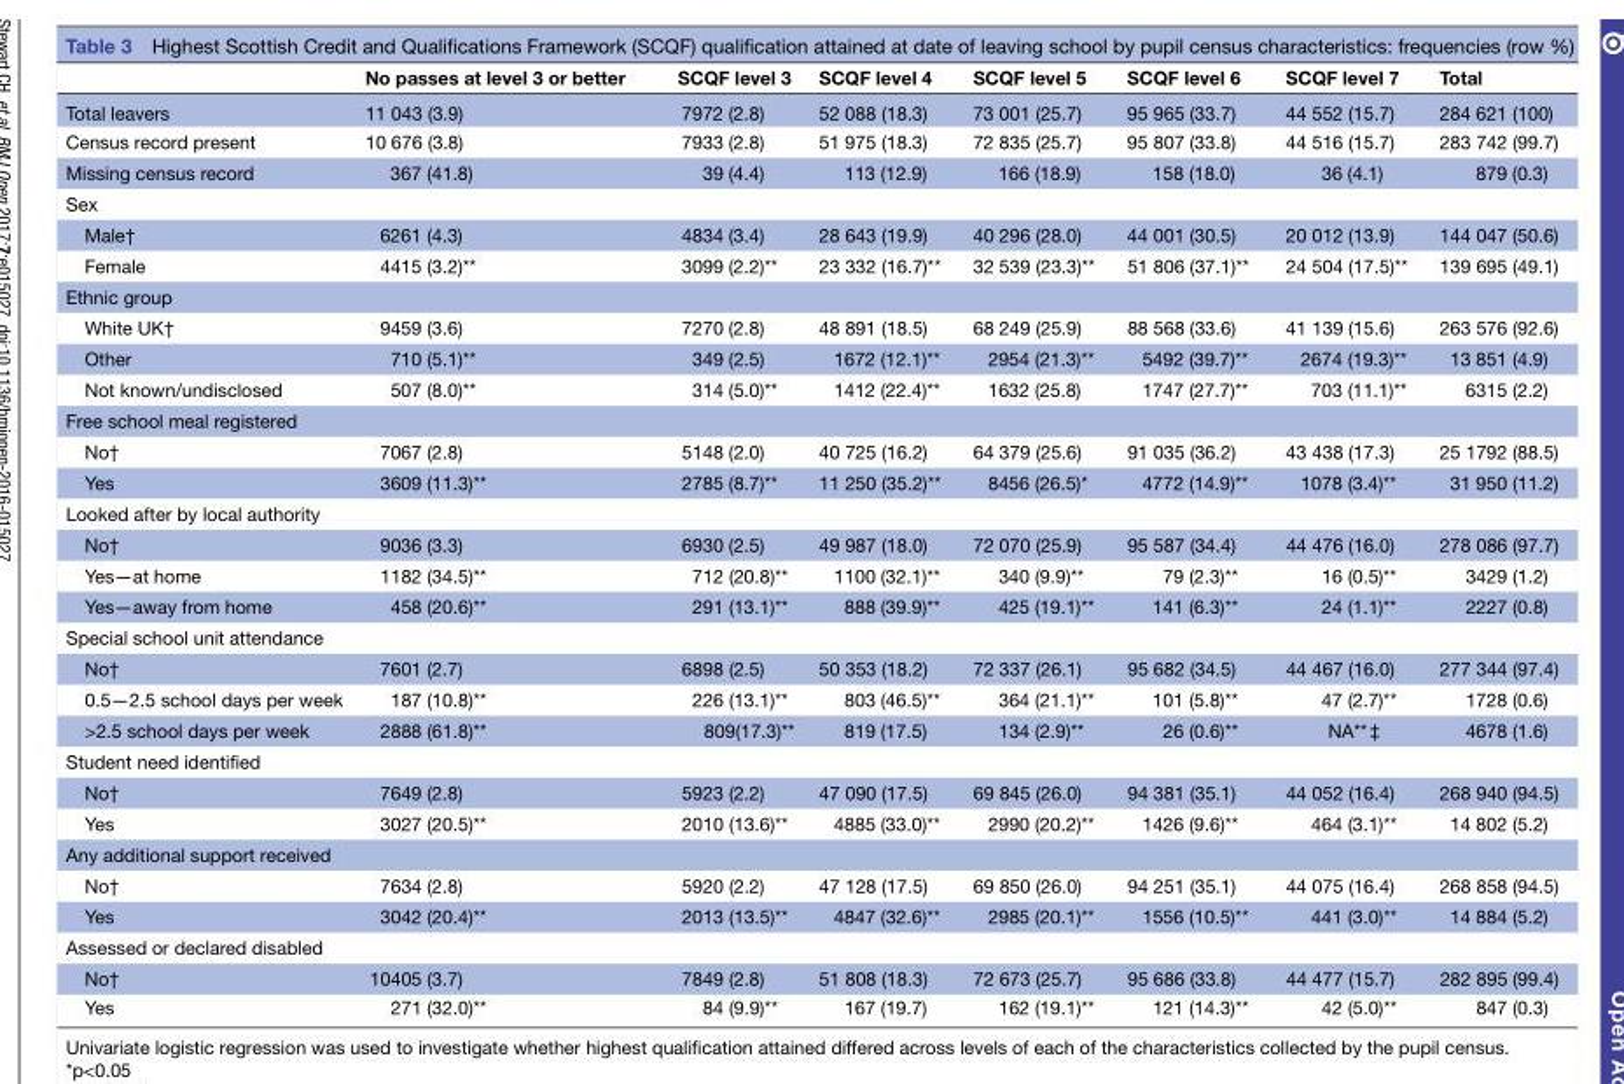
<table><thead><tr><td></td><td>No passes at level 3 or better</td><td>SCQF level 3</td><td>SCQF level 4</td><td>SCQF level 5</td><td>SCQF level 6</td><td>SCQF level 7</td><td>Total</td></tr></thead><tbody><tr><td>Total leavers</td><td>11 043 (3.9)</td><td>7972 (2.8)</td><td>52 088 (18.3)</td><td>73 001 (25.7)</td><td>95 965 (33.7)</td><td>44 552 (15.7)</td><td>284 621 (100)</td></tr><tr><td>Census record present</td><td>10 676 (3.8)</td><td>7933 (2.8)</td><td>51 975 (18.3)</td><td>72 835 (25.7)</td><td>95 807 (33.8)</td><td>44 516 (15.7)</td><td>283 742 (99.7)</td></tr><tr><td>Missing census record</td><td>367 (41.8)</td><td>39 (4.4)</td><td>113 (12.9)</td><td>166 (18.9)</td><td>158 (18.0)</td><td>36 (4.1)</td><td>879 (0.3)</td></tr><tr><td colspan="8">Sex</td></tr><tr><td>Male†</td><td>6261 (4.3)</td><td>4834 (3.4)</td><td>28 643 (19.9)</td><td>40 296 (28.0)</td><td>44 001 (30.5)</td><td>20 012 (13.9)</td><td>144 047 (50.6)</td></tr><tr><td>Female</td><td>4415 (3.2)**</td><td>3099 (2.2)**</td><td>23 332 (16.7)**</td><td>32 539 (23.3)**</td><td>51 806 (37.1)**</td><td>24 504 (17.5)**</td><td>139 695 (49.1)</td></tr><tr><td colspan="8">Ethnic group</td></tr><tr><td>White UK†</td><td>9459 (3.6)</td><td>7270 (2.8)</td><td>48 891 (18.5)</td><td>68 249 (25.9)</td><td>88 568 (33.6)</td><td>41 139 (15.6)</td><td>263 576 (92.6)</td></tr><tr><td>Other</td><td>710 (5.1)**</td><td>349 (2.5)</td><td>1672 (12.1)**</td><td>2954 (21.3)**</td><td>5492 (39.7)**</td><td>2674 (19.3)**</td><td>13 851 (4.9)</td></tr><tr><td>Not known/undisclosed</td><td>507 (8.0)**</td><td>314 (5.0)**</td><td>1412 (22.4)**</td><td>1632 (25.8)</td><td>1747 (27.7)**</td><td>703 (11.1)**</td><td>6315 (2.2)</td></tr><tr><td colspan="8">Free school meal registered</td></tr><tr><td>No†</td><td>7067 (2.8)</td><td>5148 (2.0)</td><td>40 725 (16.2)</td><td>64 379 (25.6)</td><td>91 035 (36.2)</td><td>43 438 (17.3)</td><td>25 1792 (88.5)</td></tr><tr><td>Yes</td><td>3609 (11.3)**</td><td>2785 (8.7)**</td><td>11 250 (35.2)**</td><td>8456 (26.5)*</td><td>4772 (14.9)**</td><td>1078 (3.4)**</td><td>31 950 (11.2)</td></tr><tr><td colspan="8">Looked after by local authority</td></tr><tr><td>No†</td><td>9036 (3.3)</td><td>6930 (2.5)</td><td>49 987 (18.0)</td><td>72 070 (25.9)</td><td>95 587 (34.4)</td><td>44 476 (16.0)</td><td>278 086 (97.7)</td></tr><tr><td>Yes—at home</td><td>1182 (34.5)**</td><td>712 (20.8)**</td><td>1100 (32.1)**</td><td>340 (9.9)**</td><td>79 (2.3)**</td><td>16 (0.5)**</td><td>3429 (1.2)</td></tr><tr><td>Yes—away from home</td><td>458 (20.6)**</td><td>291 (13.1)**</td><td>888 (39.9)**</td><td>425 (19.1)**</td><td>141 (6.3)**</td><td>24 (1.1)**</td><td>2227 (0.8)</td></tr><tr><td colspan="8">Special school unit attendance</td></tr><tr><td>No†</td><td>7601 (2.7)</td><td>6898 (2.5)</td><td>50 353 (18.2)</td><td>72 337 (26.1)</td><td>95 682 (34.5)</td><td>44 467 (16.0)</td><td>277 344 (97.4)</td></tr><tr><td>0.5—2.5 school days per week</td><td>187 (10.8)**</td><td>226 (13.1)**</td><td>803 (46.5)**</td><td>364 (21.1)**</td><td>101 (5.8)**</td><td>47 (2.7)**</td><td>1728 (0.6)</td></tr><tr><td>&gt;2.5 school days per week</td><td>2888 (61.8)**</td><td>809(17.3)**</td><td>819 (17.5)</td><td>134 (2.9)**</td><td>26 (0.6)**</td><td>NA** ‡</td><td>4678 (1.6)</td></tr><tr><td colspan="8">Student need identified</td></tr><tr><td>No†</td><td>7649 (2.8)</td><td>5923 (2.2)</td><td>47 090 (17.5)</td><td>69 845 (26.0)</td><td>94 381 (35.1)</td><td>44 052 (16.4)</td><td>268 940 (94.5)</td></tr><tr><td>Yes</td><td>3027 (20.5)**</td><td>2010 (13.6)**</td><td>4885 (33.0)**</td><td>2990 (20.2)**</td><td>1426 (9.6)**</td><td>464 (3.1)**</td><td>14 802 (5.2)</td></tr><tr><td colspan="8">Any additional support received</td></tr><tr><td>No†</td><td>7634 (2.8)</td><td>5920 (2.2)</td><td>47 128 (17.5)</td><td>69 850 (26.0)</td><td>94 251 (35.1)</td><td>44 075 (16.4)</td><td>268 858 (94.5)</td></tr><tr><td>Yes</td><td>3042 (20.4)**</td><td>2013 (13.5)**</td><td>4847 (32.6)**</td><td>2985 (20.1)**</td><td>1556 (10.5)**</td><td>441 (3.0)**</td><td>14 884 (5.2)</td></tr><tr><td colspan="8">Assessed or declared disabled</td></tr><tr><td>No†</td><td>10405 (3.7)</td><td>7849 (2.8)</td><td>51 808 (18.3)</td><td>72 673 (25.7)</td><td>95 686 (33.8)</td><td>44 477 (15.7)</td><td>282 895 (99.4)</td></tr><tr><td>Yes</td><td>271 (32.0)**</td><td>84 (9.9)**</td><td>167 (19.7)</td><td>162 (19.1)**</td><td>121 (14.3)**</td><td>42 (5.0)**</td><td>847 (0.3)</td></tr></tbody></table>